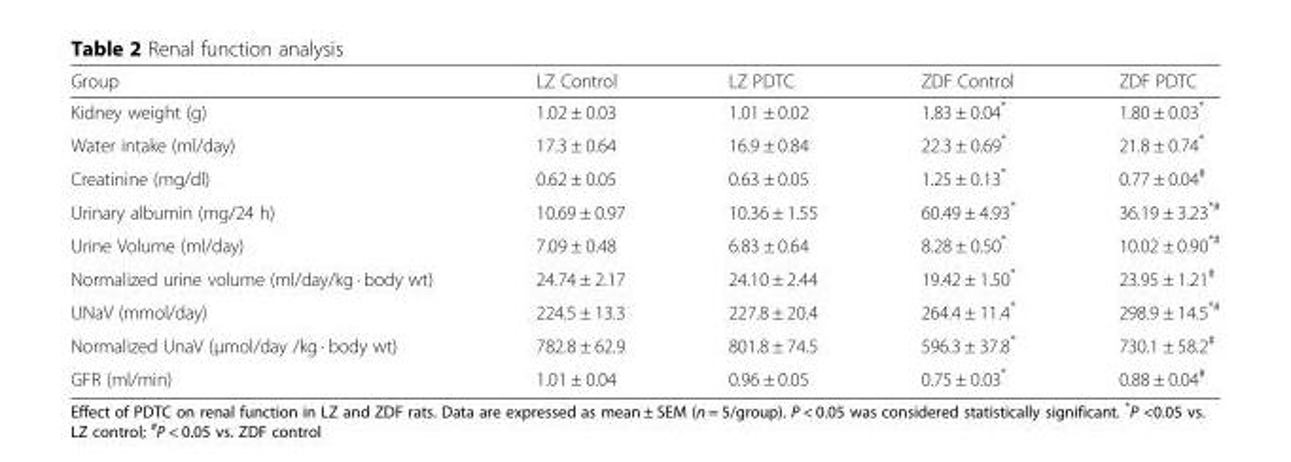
<table><thead><tr><td>Group</td><td>LZ Control</td><td>LZ PDTC</td><td>ZDF Control</td><td>ZDF PDTC</td></tr></thead><tbody><tr><td>Kidney weight (g)</td><td>1.02 ± 0.03</td><td>1.01 ± 0.02</td><td>1.83 ± 0.04*</td><td>1.80 ± 0.03*</td></tr><tr><td>Water intake (ml/day)</td><td>17.3 ± 0.64</td><td>16.9 ± 0.84</td><td>22.3 ± 0.69*</td><td>21.8 ± 0.74*</td></tr><tr><td>Creatinine (mg/dl)</td><td>0.62 ± 0.05</td><td>0.63 ± 0.05</td><td>1.25 ± 0.13*</td><td>0.77 ± 0.04<sup>#</sup></td></tr><tr><td>Urinary albumin (mg/24 h)</td><td>10.69 ± 0.97</td><td>10.36 ± 1.55</td><td>60.49 ± 4.93*</td><td>36.19 ± 3.23<sup>*#</sup></td></tr><tr><td>Urine Volume (ml/day)</td><td>7.09 ± 0.48</td><td>6.83 ± 0.64</td><td>8.28 ± 0.50*</td><td>10.02 ± 0.90<sup>*#</sup></td></tr><tr><td>Normalized urine volume (ml/day/kg · body wt)</td><td>24.74 ± 2.17</td><td>24.10 ± 2.44</td><td>19.42 ± 1.50*</td><td>23.95 ± 1.21<sup>#</sup></td></tr><tr><td>UNaV (mmol/day)</td><td>224.5 ± 13.3</td><td>227.8 ± 20.4</td><td>264.4 ± 11.4*</td><td>298.9 ± 14.5<sup>*#</sup></td></tr><tr><td>Normalized UnaV (μmol/day /kg · body wt)</td><td>782.8 ± 62.9</td><td>801.8 ± 74.5</td><td>596.3 ± 37.8*</td><td>730.1 ± 58.2<sup>#</sup></td></tr><tr><td>GFR (ml/min)</td><td>1.01 ± 0.04</td><td>0.96 ± 0.05</td><td>0.75 ± 0.03*</td><td>0.88 ± 0.04<sup>#</sup></td></tr></tbody></table>